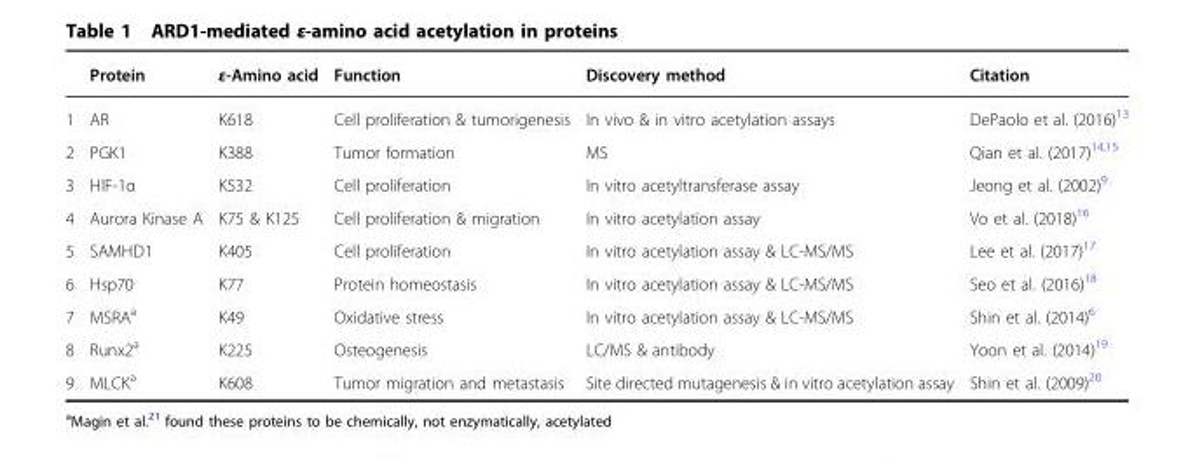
<table><thead><tr><td></td><td>Protein</td><td>ε-Amino acid</td><td>Function</td><td>Discovery method</td><td>Citation</td></tr></thead><tbody><tr><td>1</td><td>AR</td><td>K618</td><td>Cell proliferation &amp; tumorigenesis</td><td>In vivo &amp; in vitro acetylation assays</td><td>DePaolo et al. (2016)<sup>13</sup></td></tr><tr><td>2</td><td>PGK1</td><td>K388</td><td>Tumor formation</td><td>MS</td><td>Qian et al. (2017)<sup>14,15</sup></td></tr><tr><td>3</td><td>HIF-1α</td><td>K532</td><td>Cell proliferation</td><td>In vitro acetyltransferase assay</td><td>Jeong et al. (2002)<sup>9</sup></td></tr><tr><td>4</td><td>Aurora Kinase A</td><td>K75 &amp; K125</td><td>Cell proliferation &amp; migration</td><td>In vitro acetylation assay</td><td>Vo et al. (2018)<sup>16</sup></td></tr><tr><td>5</td><td>SAMHD1</td><td>K405</td><td>Cell proliferation</td><td>In vitro acetylation assay &amp; LC-MS/MS</td><td>Lee et al. (2017)<sup>17</sup></td></tr><tr><td>6</td><td>Hsp70</td><td>K77</td><td>Protein homeostasis</td><td>In vitro acetylation assay &amp; LC-MS/MS</td><td>Seo et al. (2016)<sup>18</sup></td></tr><tr><td>7</td><td>MSRA<sup>a</sup></td><td>K49</td><td>Oxidative stress</td><td>In vitro acetylation assay &amp; LC-MS/MS</td><td>Shin et al. (2014)<sup>6</sup></td></tr><tr><td>8</td><td>Runx2<sup>a</sup></td><td>K225</td><td>Osteogenesis</td><td>LC/MS &amp; antibody</td><td>Yoon et al. (2014)<sup>19</sup></td></tr><tr><td>9</td><td>MLCK<sup>a</sup></td><td>K608</td><td>Tumor migration and metastasis</td><td>Site directed mutagenesis &amp; in vitro acetylation assay</td><td>Shin et al. (2009)<sup>20</sup></td></tr></tbody></table>